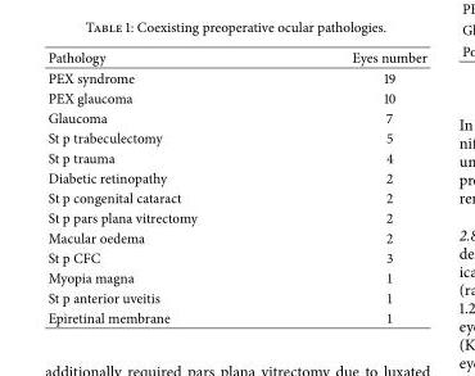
<table><thead><tr><td>Pathology</td><td>Eyes number</td></tr></thead><tbody><tr><td>PEX syndrome</td><td>19</td></tr><tr><td>PEX glaucoma</td><td>10</td></tr><tr><td>Glaucoma</td><td>7</td></tr><tr><td>St p trabeculectomy</td><td>5</td></tr><tr><td>St p trauma</td><td>4</td></tr><tr><td>Diabetic retinopathy</td><td>2</td></tr><tr><td>St p congenital cataract</td><td>2</td></tr><tr><td>St p pars plana vitrectomy</td><td>2</td></tr><tr><td>Macular oedema</td><td>2</td></tr><tr><td>St p CFC</td><td>3</td></tr><tr><td>Myopia magna</td><td>1</td></tr><tr><td>St p anterior uveitis</td><td>1</td></tr><tr><td>Epiretinal membrane</td><td>1</td></tr></tbody></table>